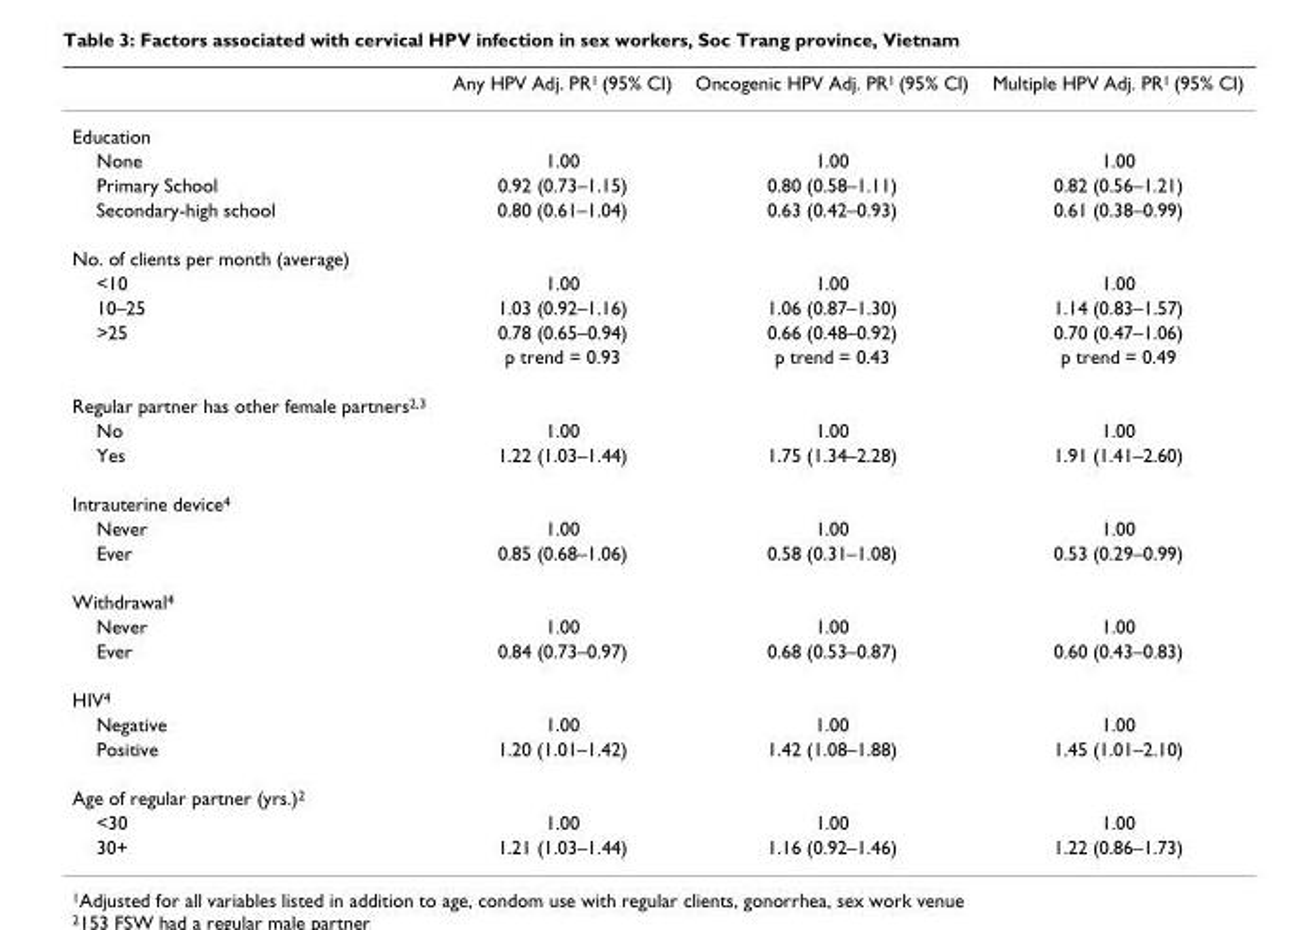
<table><thead><tr><td></td><td>Any HPV Adj. PR<sup>1</sup> (95% CI)</td><td>Oncogenic HPV Adj. PR<sup>1</sup> (95% CI)</td><td>Multiple HPV Adj. PR<sup>1</sup> (95% CI)</td></tr></thead><tbody><tr><td colspan="4">Education</td></tr><tr><td>None</td><td>1.00</td><td>1.00</td><td>1.00</td></tr><tr><td>Primary School</td><td>0.92 (0.73–1.15)</td><td>0.80 (0.58–1.11)</td><td>0.82 (0.56–1.21)</td></tr><tr><td>Secondary-high school</td><td>0.80 (0.61–1.04)</td><td>0.63 (0.42–0.93)</td><td>0.61 (0.38–0.99)</td></tr><tr><td colspan="4">No. of clients per month (average)</td></tr><tr><td>&lt;10</td><td>1.00</td><td>1.00</td><td>1.00</td></tr><tr><td>10–25</td><td>1.03 (0.92–1.16)</td><td>1.06 (0.87–1.30)</td><td>1.14 (0.83–1.57)</td></tr><tr><td rowspan="2">&gt;25</td><td>0.78 (0.65–0.94)</td><td>0.66 (0.48–0.92)</td><td>0.70 (0.47–1.06)</td></tr><tr><td>p trend = 0.93</td><td>p trend = 0.43</td><td>p trend = 0.49</td></tr><tr><td colspan="4">Regular partner has other female partners<sup>2,3</sup></td></tr><tr><td>No</td><td>1.00</td><td>1.00</td><td>1.00</td></tr><tr><td>Yes</td><td>1.22 (1.03–1.44)</td><td>1.75 (1.34–2.28)</td><td>1.91 (1.41–2.60)</td></tr><tr><td colspan="4">Intrauterine device<sup>4</sup></td></tr><tr><td>Never</td><td>1.00</td><td>1.00</td><td>1.00</td></tr><tr><td>Ever</td><td>0.85 (0.68–1.06)</td><td>0.58 (0.31–1.08)</td><td>0.53 (0.29–0.99)</td></tr><tr><td colspan="4">Withdrawal<sup>4</sup></td></tr><tr><td>Never</td><td>1.00</td><td>1.00</td><td>1.00</td></tr><tr><td>Ever</td><td>0.84 (0.73–0.97)</td><td>0.68 (0.53–0.87)</td><td>0.60 (0.43–0.83)</td></tr><tr><td colspan="4">HIV4</td></tr><tr><td>Negative</td><td>1.00</td><td>1.00</td><td>1.00</td></tr><tr><td>Positive</td><td>1.20 (1.01–1.42)</td><td>1.42 (1.08–1.88)</td><td>1.45 (1.01–2.10)</td></tr><tr><td colspan="4">Age of regular partner (yrs.)<sup>2</sup></td></tr><tr><td>&lt;30</td><td>1.00</td><td>1.00</td><td>1.00</td></tr><tr><td>30+</td><td>1.21 (1.03–1.44)</td><td>1.16 (0.92–1.46)</td><td>1.22 (0.86–1.73)</td></tr></tbody></table>